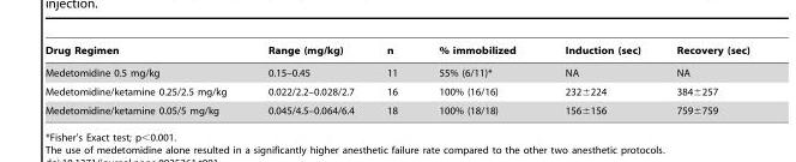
<table><thead><tr><td>Drug Regimen</td><td>Range (mg/kg)</td><td>n</td><td>% immobilized</td><td>Induction (sec)</td><td>Recovery (sec)</td></tr></thead><tbody><tr><td>Medetomidine 0.5 mg/kg</td><td>0.15–0.45</td><td>11</td><td>55% (6/11)*</td><td>NA</td><td>NA</td></tr><tr><td>Medetomidine/ketamine 0.25/2.5 mg/kg</td><td>0.022/2.2–0.028/2.7</td><td>16</td><td>100% (16/16)</td><td>232±224</td><td>384±257</td></tr><tr><td>Medetomidine/ketamine 0.05/5 mg/kg</td><td>0.045/4.5–0.064/6.4</td><td>18</td><td>100% (18/18)</td><td>156±156</td><td>759±759</td></tr></tbody></table>